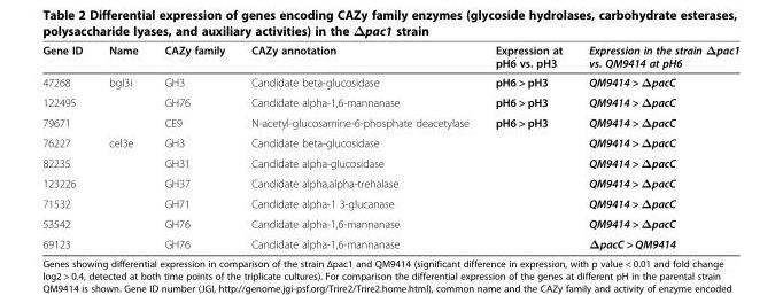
<table><thead><tr><td>Gene ID</td><td>Name</td><td>CAZy family</td><td>CAZy annotation</td><td>Expression at pH6 vs. pH3</td><td>Expression in the strain Δpac1 vs. QM9414 at pH6</td></tr></thead><tbody><tr><td>47268</td><td>bgl3i</td><td>GH3</td><td>Candidate beta-glucosidase</td><td>pH6 &gt; pH3</td><td>QM9414 &gt; ΔpacC</td></tr><tr><td>122495</td><td></td><td>GH76</td><td>Candidate alpha-1,6-mannanase</td><td>pH6 &gt; pH3</td><td>QM9414 &gt; ΔpacC</td></tr><tr><td>79671</td><td></td><td>CE9</td><td>N-acetyl-glucosamine-6-phosphate deacetylase</td><td>pH6 &gt; pH3</td><td>QM9414 &gt; ΔpacC</td></tr><tr><td>76227</td><td>cel3e</td><td>GH3</td><td>Candidate beta-glucosidase</td><td></td><td>QM9414 &gt; ΔpacC</td></tr><tr><td>82235</td><td></td><td>GH31</td><td>Candidate alpha-glucosidase</td><td></td><td>QM9414 &gt; ΔpacC</td></tr><tr><td>123226</td><td></td><td>GH37</td><td>Candidate alpha,alpha-trehalase</td><td></td><td>QM9414 &gt; ΔpacC</td></tr><tr><td>71532</td><td></td><td>GH71</td><td>Candidate alpha-1 3-glucanase</td><td></td><td>QM9414 &gt; ΔpacC</td></tr><tr><td>53542</td><td></td><td>GH76</td><td>Candidate alpha-1,6-mannanase</td><td></td><td>QM9414 &gt; ΔpacC</td></tr><tr><td>69123</td><td></td><td>GH76</td><td>Candidate alpha-1,6-mannanase</td><td></td><td>ΔpacC &gt; QM9414</td></tr></tbody></table>